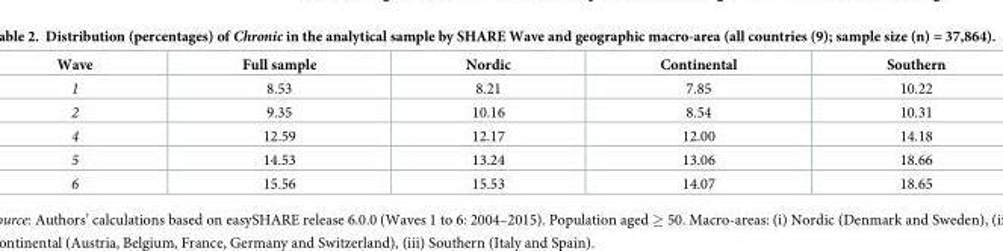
<table><thead><tr><td>Wave</td><td>Full sample</td><td>Nordic</td><td>Continental</td><td>Southern</td></tr></thead><tbody><tr><td>1</td><td>8.53</td><td>8.21</td><td>7.85</td><td>10.22</td></tr><tr><td>2</td><td>9.35</td><td>10.16</td><td>8.54</td><td>10.31</td></tr><tr><td>4</td><td>12.59</td><td>12.17</td><td>12.00</td><td>14.18</td></tr><tr><td>5</td><td>14.53</td><td>13.24</td><td>13.06</td><td>18.66</td></tr><tr><td>6</td><td>15.56</td><td>15.53</td><td>14.07</td><td>18.65</td></tr></tbody></table>